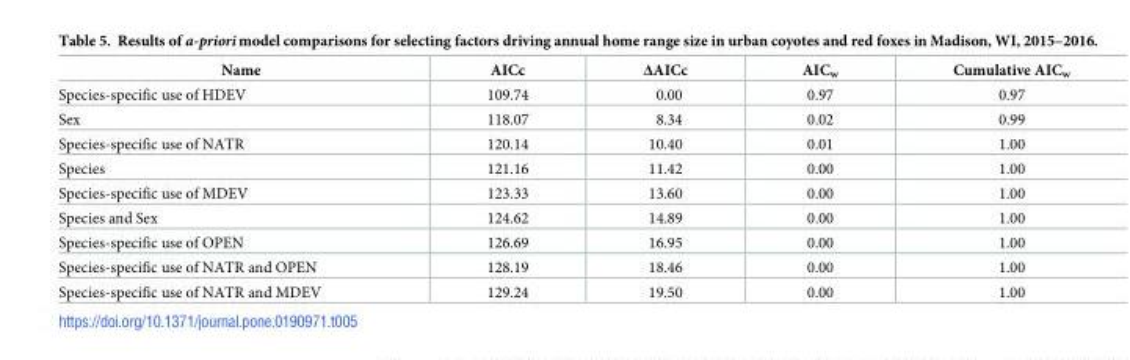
<table><thead><tr><td>Name</td><td>AICc</td><td>ΔAICc</td><td>AIC<sub>w</sub></td><td>Cumulative AIC<sub>w</sub></td></tr></thead><tbody><tr><td>Species-specific use of HDEV</td><td>109.74</td><td>0.00</td><td>0.97</td><td>0.97</td></tr><tr><td>Sex</td><td>118.07</td><td>8.34</td><td>0.02</td><td>0.99</td></tr><tr><td>Species-specific use of NATR</td><td>120.14</td><td>10.40</td><td>0.01</td><td>1.00</td></tr><tr><td>Species</td><td>121.16</td><td>11.42</td><td>0.00</td><td>1.00</td></tr><tr><td>Species-specific use of MDEV</td><td>123.33</td><td>13.60</td><td>0.00</td><td>1.00</td></tr><tr><td>Species and Sex</td><td>124.62</td><td>14.89</td><td>0.00</td><td>1.00</td></tr><tr><td>Species-specific use of OPEN</td><td>126.69</td><td>16.95</td><td>0.00</td><td>1.00</td></tr><tr><td>Species-specific use of NATR and OPEN</td><td>128.19</td><td>18.46</td><td>0.00</td><td>1.00</td></tr><tr><td>Species-specific use of NATR and MDEV</td><td>129.24</td><td>19.50</td><td>0.00</td><td>1.00</td></tr></tbody></table>